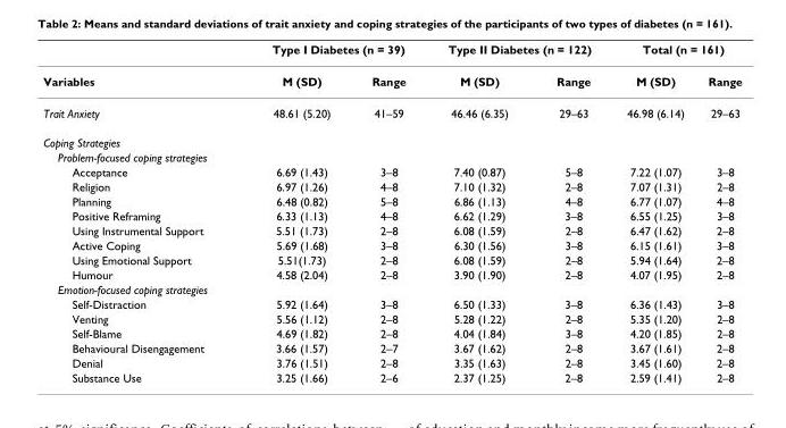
<table><thead><tr><td rowspan="2">Variables</td><td colspan="2">Type I Diabetes (n = 39)</td><td colspan="2">Type II Diabetes (n = 122)</td><td colspan="2">Total (n = 161)</td></tr><tr><td>M (SD)</td><td>Range</td><td>M (SD)</td><td>Range</td><td>M (SD)</td><td>Range</td></tr></thead><tbody><tr><td>Trait Anxiety</td><td>48.61 (5.20)</td><td>41–59</td><td>46.46 (6.35)</td><td>29–63</td><td>46.98 (6.14)</td><td>29–63</td></tr><tr><td colspan="7">Coping Strategies</td></tr><tr><td colspan="7">Problem-focused coping strategies</td></tr><tr><td>Acceptance</td><td>6.69 (1.43)</td><td>3–8</td><td>7.40 (0.87)</td><td>5–8</td><td>7.22 (1.07)</td><td>3–8</td></tr><tr><td>Religion</td><td>6.97 (1.26)</td><td>4–8</td><td>7.10 (1.32)</td><td>2–8</td><td>7.07 (1.31)</td><td>2–8</td></tr><tr><td>Planning</td><td>6.48 (0.82)</td><td>5–8</td><td>6.86 (1.13)</td><td>4–8</td><td>6.77 (1.07)</td><td>4–8</td></tr><tr><td>Positive Reframing</td><td>6.33 (1.13)</td><td>4–8</td><td>6.62 (1.29)</td><td>3–8</td><td>6.55 (1.25)</td><td>3–8</td></tr><tr><td>Using Instrumental Support</td><td>5.51 (1.73)</td><td>2–8</td><td>6.08 (1.59)</td><td>2–8</td><td>6.47 (1.62)</td><td>2–8</td></tr><tr><td>Active Coping</td><td>5.69 (1.68)</td><td>3–8</td><td>6.30 (1.56)</td><td>3–8</td><td>6.15 (1.61)</td><td>3–8</td></tr><tr><td>Using Emotional Support</td><td>5.51(1.73)</td><td>2–8</td><td>6.08 (1.59)</td><td>2–8</td><td>5.94 (1.64)</td><td>2–8</td></tr><tr><td>Humour</td><td>4.58 (2.04)</td><td>2–8</td><td>3.90 (1.90)</td><td>2–8</td><td>4.07 (1.95)</td><td>2–8</td></tr><tr><td colspan="7">Emotion-focused coping strategies</td></tr><tr><td>Self-Distraction</td><td>5.92 (1.64)</td><td>3–8</td><td>6.50 (1.33)</td><td>3–8</td><td>6.36 (1.43)</td><td>3–8</td></tr><tr><td>Venting</td><td>5.56 (1.12)</td><td>2–8</td><td>5.28 (1.22)</td><td>2–8</td><td>5.35 (1.20)</td><td>2–8</td></tr><tr><td>Self-Blame</td><td>4.69 (1.82)</td><td>2–8</td><td>4.04 (1.84)</td><td>3–8</td><td>4.20 (1.85)</td><td>2–8</td></tr><tr><td>Behavioural Disengagement</td><td>3.66 (1.57)</td><td>2–7</td><td>3.67 (1.62)</td><td>2–8</td><td>3.67 (1.61)</td><td>2–8</td></tr><tr><td>Denial</td><td>3.76 (1.51)</td><td>2–8</td><td>3.35 (1.63)</td><td>2–8</td><td>3.45 (1.60)</td><td>2–8</td></tr><tr><td>Substance Use</td><td>3.25 (1.66)</td><td>2–6</td><td>2.37 (1.25)</td><td>2–8</td><td>2.59 (1.41)</td><td>2–8</td></tr></tbody></table>